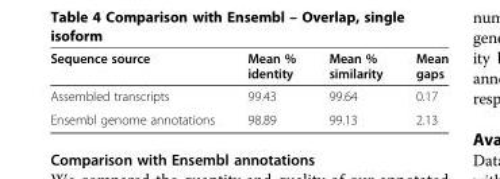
<table><thead><tr><td>Sequence source</td><td>Mean % identity</td><td>Mean % similarity</td><td>Mean gaps</td></tr></thead><tbody><tr><td>Assembled transcripts</td><td>99.43</td><td>99.64</td><td>0.17</td></tr><tr><td>Ensembl genome annotations</td><td>98.89</td><td>99.13</td><td>2.13</td></tr></tbody></table>